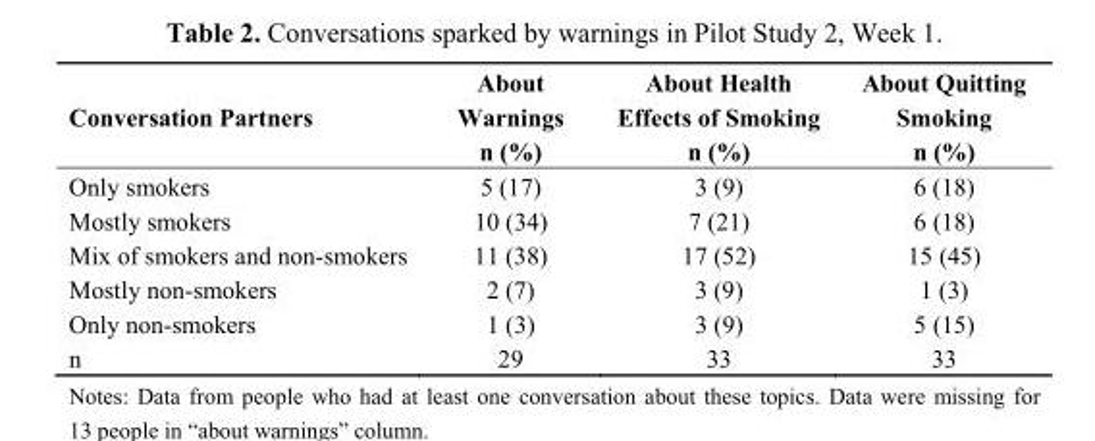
<table><thead><tr><td>Conversation Partners</td><td>About Warnings n (%)</td><td>About Health Effects of Smoking n (%)</td><td>About Quitting Smoking n (%)</td></tr></thead><tbody><tr><td>Only smokers</td><td>5 (17)</td><td>3 (9)</td><td>6 (18)</td></tr><tr><td>Mostly smokers</td><td>10 (34)</td><td>7 (21)</td><td>6 (18)</td></tr><tr><td>Mix of smokers and non-smokers</td><td>11 (38)</td><td>17 (52)</td><td>15 (45)</td></tr><tr><td>Mostly non-smokers</td><td>2 (7)</td><td>3 (9)</td><td>1 (3)</td></tr><tr><td>Only non-smokers</td><td>1 (3)</td><td>3 (9)</td><td>5 (15)</td></tr><tr><td>n</td><td>29</td><td>33</td><td>33</td></tr></tbody></table>